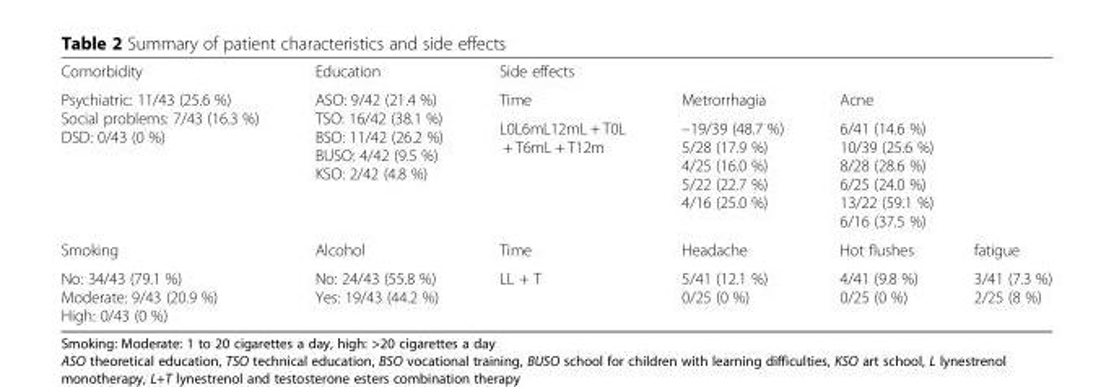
<table><tbody><tr><td>Comorbidity</td><td>Education</td><td colspan="4">Side effects</td></tr><tr><td rowspan="2">Psychiatric: 11/43 (25.6 %) Social problems: 7/43 (16.3 %) DSD: 0/43 (0 %)</td><td rowspan="2">ASO: 9/42 (21.4 %) TSO: 16/42 (38.1 %) BSO: 11/42 (26.2 %) BUSO: 4/42 (9.5 %) KSO: 2/42 (4.8 %)</td><td>Time</td><td>Metrorrhagia</td><td colspan="2">Acne</td></tr><tr><td>L0L6mL12mL + T0L + T6mL + T12m</td><td>–19/39 (48.7 %) 5/28 (17.9 %) 4/25 (16.0 %) 5/22 (22.7 %) 4/16 (25.0 %)</td><td colspan="2">6/41 (14.6 %) 10/39 (25.6 %) 8/28 (28.6 %) 6/25 (24.0 %) 13/22 (59.1 %) 6/16 (37.5 %)</td></tr><tr><td>Smoking</td><td>Alcohol</td><td>Time</td><td>Headache</td><td>Hot flushes</td><td>fatigue</td></tr><tr><td>No: 34/43 (79.1 %) Moderate: 9/43 (20.9 %) High: 0/43 (0 %)</td><td>No: 24/43 (55.8 %) Yes: 19/43 (44.2 %)</td><td>LL + T</td><td>5/41 (12.1 %) 0/25 (0 %)</td><td>4/41 (9.8 %) 0/25 (0 %)</td><td>3/41 (7.3 %) 2/25 (8 %)</td></tr></tbody></table>